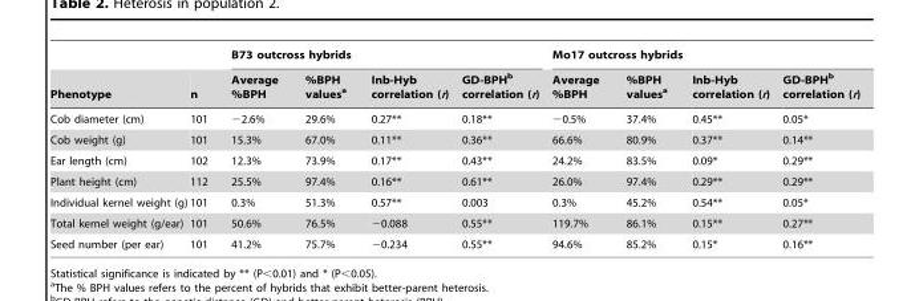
<table><thead><tr><td rowspan="2">Phenotype</td><td rowspan="2">n</td><td colspan="4">B73 outcross hybrids</td><td colspan="4">Mo17 outcross hybrids</td></tr><tr><td>Average %BPH</td><td>%BPH values<sup>a</sup></td><td>Inb-Hyb correlation (r)</td><td>GD-BPH<sup>b</sup> correlation (r)</td><td>Average %BPH</td><td>%BPH values<sup>a</sup></td><td>Inb-Hyb correlation (r)</td><td>GD-BPH<sup>b</sup> correlation (r)</td></tr></thead><tbody><tr><td>Cob diameter (cm)</td><td>101</td><td>−2.6%</td><td>29.6%</td><td>0.27**</td><td>0.18**</td><td>−0.5%</td><td>37.4%</td><td>0.45**</td><td>0.05*</td></tr><tr><td>Cob weight (g)</td><td>101</td><td>15.3%</td><td>67.0%</td><td>0.11**</td><td>0.36**</td><td>66.6%</td><td>80.9%</td><td>0.37**</td><td>0.14**</td></tr><tr><td>Ear length (cm)</td><td>102</td><td>12.3%</td><td>73.9%</td><td>0.17**</td><td>0.43**</td><td>24.2%</td><td>83.5%</td><td>0.09*</td><td>0.29**</td></tr><tr><td>Plant height (cm)</td><td>112</td><td>25.5%</td><td>97.4%</td><td>0.16**</td><td>0.61**</td><td>26.0%</td><td>97.4%</td><td>0.29**</td><td>0.29**</td></tr><tr><td>Individual kernel weight (g)</td><td>101</td><td>0.3%</td><td>51.3%</td><td>0.57**</td><td>0.003</td><td>0.3%</td><td>45.2%</td><td>0.54**</td><td>0.05*</td></tr><tr><td>Total kernel weight (g/ear)</td><td>101</td><td>50.6%</td><td>76.5%</td><td>−0.088</td><td>0.55**</td><td>119.7%</td><td>86.1%</td><td>0.15**</td><td>0.27**</td></tr><tr><td>Seed number (per ear)</td><td>101</td><td>41.2%</td><td>75.7%</td><td>−0.234</td><td>0.55**</td><td>94.6%</td><td>85.2%</td><td>0.15*</td><td>0.16**</td></tr></tbody></table>